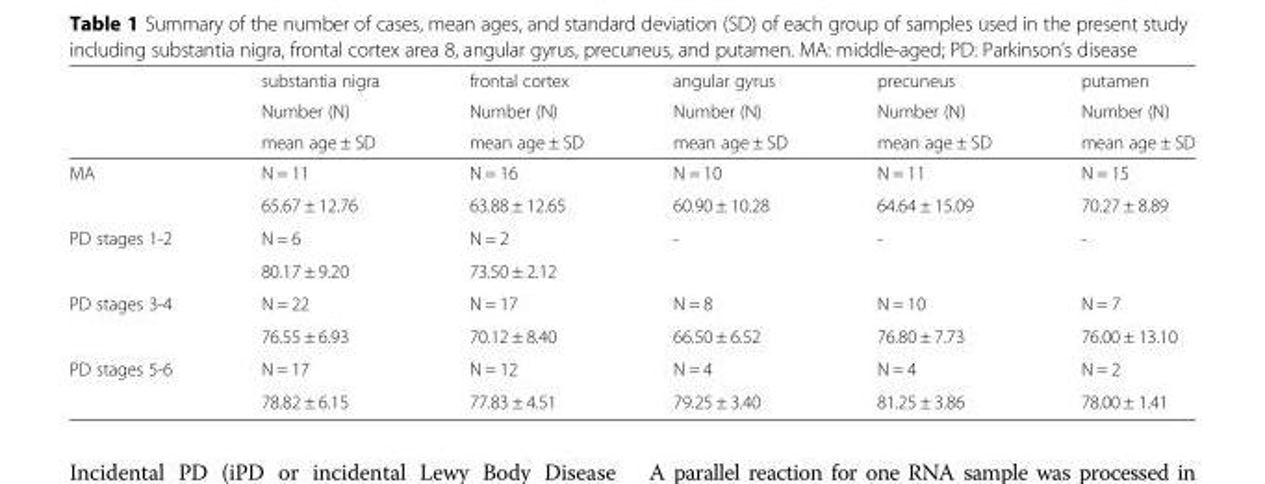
<table><thead><tr><td rowspan="3"></td><td rowspan="3">substantia nigra Number (N) mean age ± SD</td><td rowspan="3">frontal cortex Number (N) mean age ± SD</td><td rowspan="3">angular gyrus Number (N) mean age ± SD</td><td rowspan="3">precuneus Number (N) mean age ± SD</td><td rowspan="3">putamen Number (N) mean age ± SD</td></tr><tr></tr><tr></tr></thead><tbody><tr><td rowspan="2">MA</td><td>N = 11</td><td>N = 16</td><td>N = 10</td><td>N = 11</td><td>N = 15</td></tr><tr><td>65.67 ± 12.76</td><td>63.88 ± 12.65</td><td>60.90 ± 10.28</td><td>64.64 ± 15.09</td><td>70.27 ± 8.89</td></tr><tr><td rowspan="2">PD stages 1-2</td><td>N = 6</td><td>N = 2</td><td rowspan="2">-</td><td rowspan="2">-</td><td rowspan="2">-</td></tr><tr><td>80.17 ± 9.20</td><td>73.50 ± 2.12</td></tr><tr><td rowspan="2">PD stages 3-4</td><td>N = 22</td><td>N = 17</td><td>N = 8</td><td>N = 10</td><td>N = 7</td></tr><tr><td>76.55 ± 6.93</td><td>70.12 ± 8.40</td><td>66.50 ± 6.52</td><td>76.80 ± 7.73</td><td>76.00 ± 13.10</td></tr><tr><td rowspan="2">PD stages 5-6</td><td>N = 17</td><td>N = 12</td><td>N = 4</td><td>N = 4</td><td>N = 2</td></tr><tr><td>78.82 ± 6.15</td><td>77.83 ± 4.51</td><td>79.25 ± 3.40</td><td>81.25 ± 3.86</td><td>78.00 ± 1.41</td></tr></tbody></table>